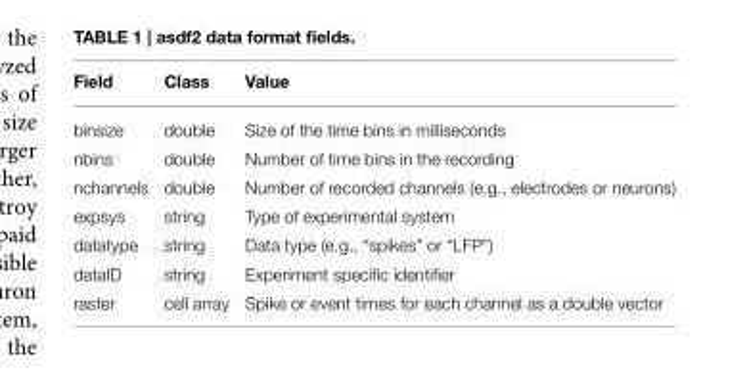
<table><thead><tr><td>Field</td><td>Class</td><td>Value</td></tr></thead><tbody><tr><td>binsize</td><td>double</td><td>Size of the time bins in milliseconds</td></tr><tr><td>nbins</td><td>double</td><td>Number of time bins in the recording</td></tr><tr><td>nchannels</td><td>double</td><td>Number of recorded channels (e.g., electrodes or neurons)</td></tr><tr><td>expsys</td><td>string</td><td>Type of experimental system</td></tr><tr><td>datatype</td><td>string</td><td>Data type (e.g., “spikes” or “LFP”)</td></tr><tr><td>dataID</td><td>string</td><td>Experiment specific identifier</td></tr><tr><td>raster</td><td>cell array</td><td>Spike or event times for each channel as a double vector</td></tr></tbody></table>